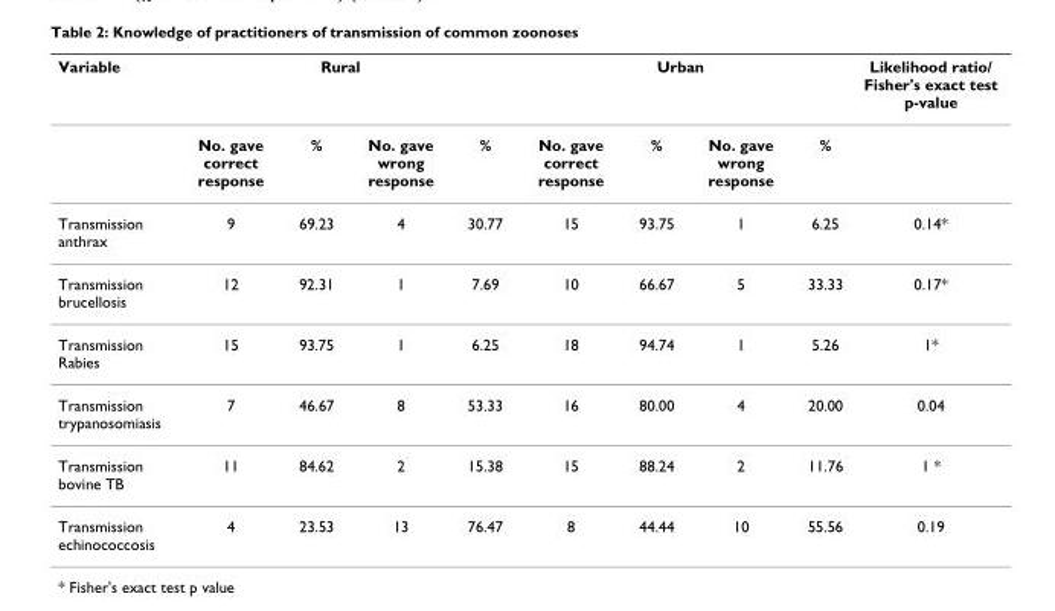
<table><thead><tr><td rowspan="2">Variable</td><td colspan="4">Rural</td><td colspan="4">Urban</td><td rowspan="2">Likelihood ratio/ Fisher&#x27;s exact test p-value</td></tr><tr><td>No. gave correct response</td><td>%</td><td>No. gave wrong response</td><td>%</td><td>No. gave correct response</td><td>%</td><td>No. gave wrong response</td><td>%</td></tr></thead><tbody><tr><td>Transmission anthrax</td><td>9</td><td>69.23</td><td>4</td><td>30.77</td><td>15</td><td>93.75</td><td>1</td><td>6.25</td><td>0.14*</td></tr><tr><td>Transmission brucellosis</td><td>12</td><td>92.31</td><td>1</td><td>7.69</td><td>10</td><td>66.67</td><td>5</td><td>33.33</td><td>0.17*</td></tr><tr><td>Transmission Rabies</td><td>15</td><td>93.75</td><td>1</td><td>6.25</td><td>18</td><td>94.74</td><td>1</td><td>5.26</td><td>1*</td></tr><tr><td>Transmission trypanosomiasis</td><td>7</td><td>46.67</td><td>8</td><td>53.33</td><td>16</td><td>80.00</td><td>4</td><td>20.00</td><td>0.04</td></tr><tr><td>Transmission bovine TB</td><td>11</td><td>84.62</td><td>2</td><td>15.38</td><td>15</td><td>88.24</td><td>2</td><td>11.76</td><td>1 *</td></tr><tr><td>Transmission echinococcosis</td><td>4</td><td>23.53</td><td>13</td><td>76.47</td><td>8</td><td>44.44</td><td>10</td><td>55.56</td><td>0.19</td></tr></tbody></table>